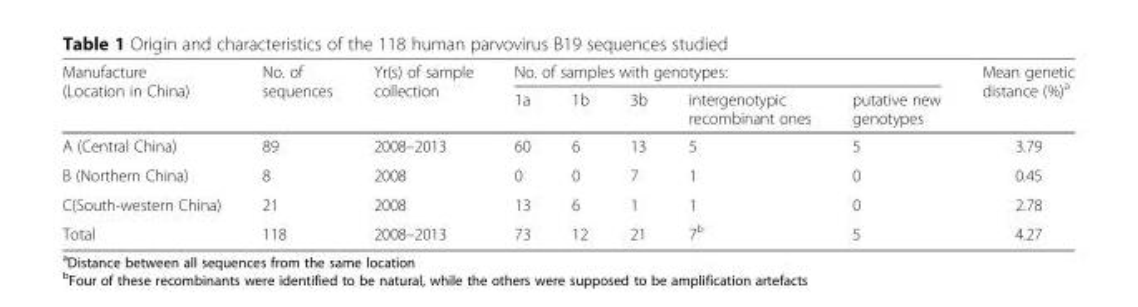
<table><thead><tr><td rowspan="2">Manufacture (Location in China)</td><td rowspan="2">No. of sequences</td><td rowspan="2">Yr(s) of sample collection</td><td colspan="5">No. of samples with genotypes:</td><td rowspan="2">Mean genetic distance (%)<sup>a</sup></td></tr><tr><td>1a</td><td>1b</td><td>3b</td><td>intergenotypic recombinant ones</td><td>putative new genotypes</td></tr></thead><tbody><tr><td>A (Central China)</td><td>89</td><td>2008–2013</td><td>60</td><td>6</td><td>13</td><td>5</td><td>5</td><td>3.79</td></tr><tr><td>B (Northern China)</td><td>8</td><td>2008</td><td>0</td><td>0</td><td>7</td><td>1</td><td>0</td><td>0.45</td></tr><tr><td>C(South-western China)</td><td>21</td><td>2008</td><td>13</td><td>6</td><td>1</td><td>1</td><td>0</td><td>2.78</td></tr><tr><td>Total</td><td>118</td><td>2008–2013</td><td>73</td><td>12</td><td>21</td><td>7<sup>b</sup></td><td>5</td><td>4.27</td></tr></tbody></table>